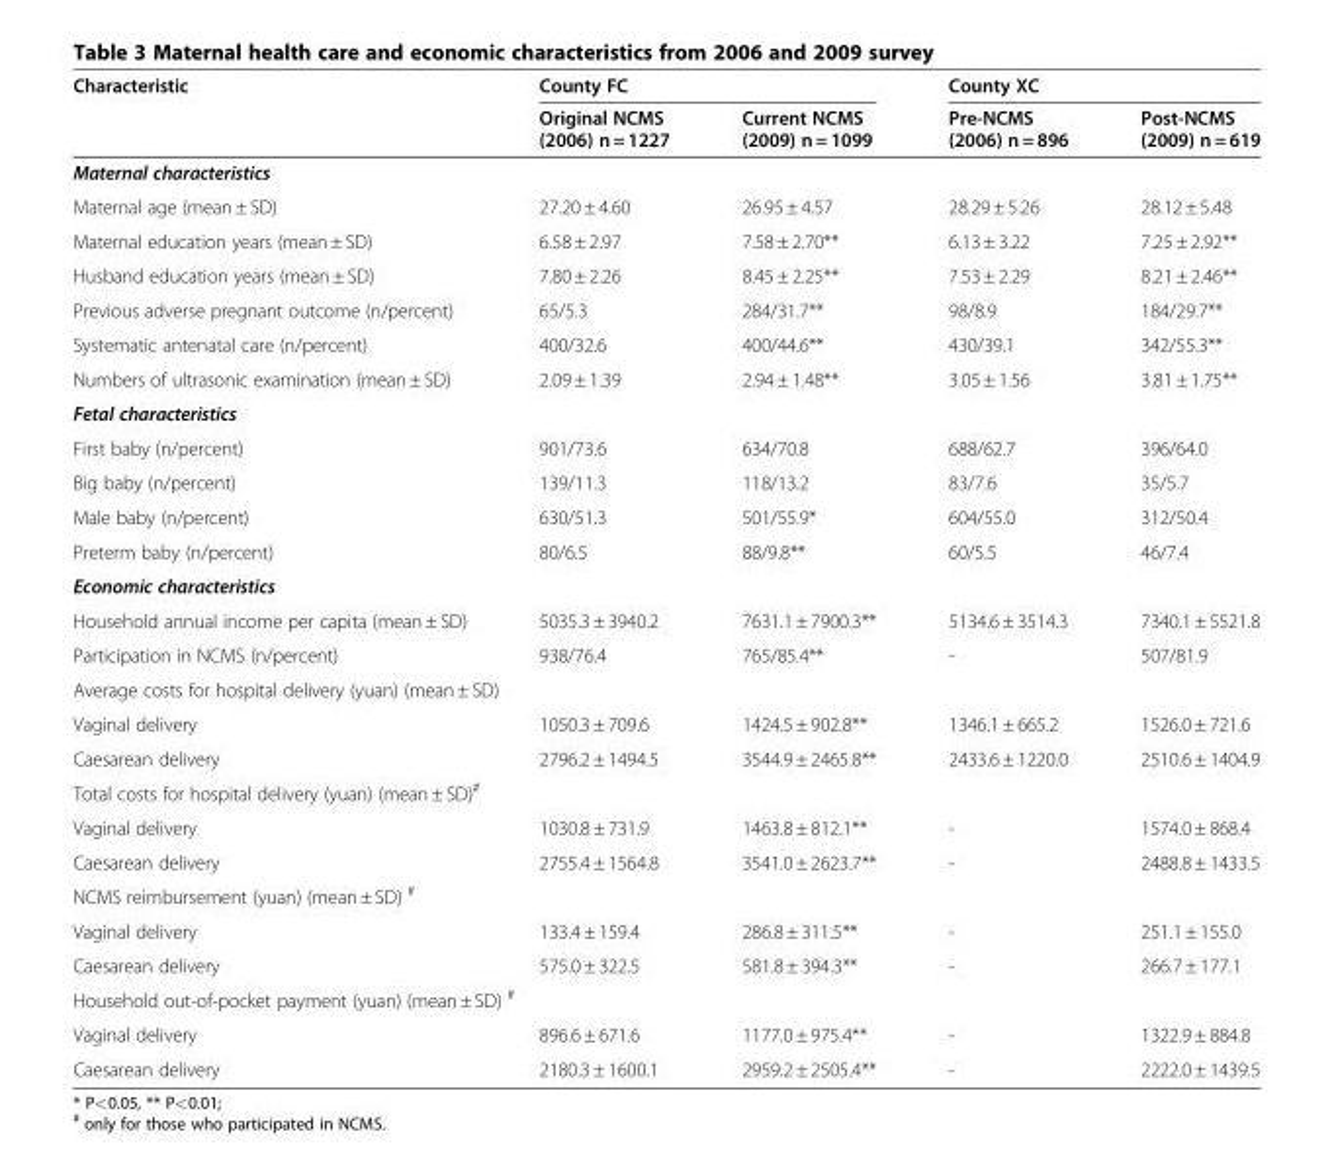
<table><thead><tr><td rowspan="2">Characteristic</td><td colspan="2">County FC</td><td colspan="2">County XC</td></tr><tr><td>Original NCMS (2006) n = 1227</td><td>Current NCMS (2009) n = 1099</td><td>Pre-NCMS (2006) n = 896</td><td>Post-NCMS (2009) n = 619</td></tr></thead><tbody><tr><td colspan="5">Maternal characteristics</td></tr><tr><td>Maternal age (mean ± SD)</td><td>27.20 ± 4.60</td><td>26.95 ± 4.57</td><td>28.29 ± 5.26</td><td>28.12 ± 5.48</td></tr><tr><td>Maternal education years (mean ± SD)</td><td>6.58 ± 2.97</td><td>7.58 ± 2.70**</td><td>6.13 ± 3.22</td><td>7.25 ± 2.92**</td></tr><tr><td>Husband education years (mean ± SD)</td><td>7.80 ± 2.26</td><td>8.45 ± 2.25**</td><td>7.53 ± 2.29</td><td>8.21 ± 2.46**</td></tr><tr><td>Previous adverse pregnant outcome (n/percent)</td><td>65/5.3</td><td>284/31.7**</td><td>98/8.9</td><td>184/29.7**</td></tr><tr><td>Systematic antenatal care (n/percent)</td><td>400/32.6</td><td>400/44.6**</td><td>430/39.1</td><td>342/55.3**</td></tr><tr><td>Numbers of ultrasonic examination (mean ± SD)</td><td>2.09 ± 1.39</td><td>2.94 ± 1.48**</td><td>3.05 ± 1.56</td><td>3.81 ± 1.75**</td></tr><tr><td colspan="5">Fetal characteristics</td></tr><tr><td>First baby (n/percent)</td><td>901/73.6</td><td>634/70.8</td><td>688/62.7</td><td>396/64.0</td></tr><tr><td>Big baby (n/percent)</td><td>139/11.3</td><td>118/13.2</td><td>83/7.6</td><td>35/5.7</td></tr><tr><td>Male baby (n/percent)</td><td>630/51.3</td><td>501/55.9*</td><td>604/55.0</td><td>312/50.4</td></tr><tr><td>Preterm baby (n/percent)</td><td>80/6.5</td><td>88/9.8**</td><td>60/5.5</td><td>46/7.4</td></tr><tr><td colspan="5">Economic characteristics</td></tr><tr><td>Household annual income per capita (mean ± SD)</td><td>5035.3 ± 3940.2</td><td>7631.1 ± 7900.3**</td><td>5134.6 ± 3514.3</td><td>7340.1 ± 5521.8</td></tr><tr><td>Participation in NCMS (n/percent)</td><td>938/76.4</td><td>765/85.4**</td><td>-</td><td>507/81.9</td></tr><tr><td colspan="5">Average costs for hospital delivery (yuan) (mean ± SD)</td></tr><tr><td>Vaginal delivery</td><td>1050.3 ± 709.6</td><td>1424.5 ± 902.8**</td><td>1346.1 ± 665.2</td><td>1526.0 ± 721.6</td></tr><tr><td>Caesarean delivery</td><td>2796.2 ± 1494.5</td><td>3544.9 ± 2465.8**</td><td>2433.6 ± 1220.0</td><td>2510.6 ± 1404.9</td></tr><tr><td colspan="5">Total costs for hospital delivery (yuan) (mean ± SD)<sup>#</sup></td></tr><tr><td>Vaginal delivery</td><td>1030.8 ± 731.9</td><td>1463.8 ± 812.1**</td><td>-</td><td>1574.0 ± 868.4</td></tr><tr><td>Caesarean delivery</td><td>2755.4 ± 1564.8</td><td>3541.0 ± 2623.7**</td><td>-</td><td>2488.8 ± 1433.5</td></tr><tr><td colspan="5">NCMS reimbursement (yuan) (mean ± SD) <sup>#</sup></td></tr><tr><td>Vaginal delivery</td><td>133.4 ± 159.4</td><td>286.8 ± 311.5**</td><td>-</td><td>251.1 ± 155.0</td></tr><tr><td>Caesarean delivery</td><td>575.0 ± 322.5</td><td>581.8 ± 394.3**</td><td>-</td><td>266.7 ± 177.1</td></tr><tr><td colspan="5">Household out-of-pocket payment (yuan) (mean ± SD) <sup>#</sup></td></tr><tr><td>Vaginal delivery</td><td>896.6 ± 671.6</td><td>1177.0 ± 975.4**</td><td>-</td><td>1322.9 ± 884.8</td></tr><tr><td>Caesarean delivery</td><td>2180.3 ± 1600.1</td><td>2959.2 ± 2505.4**</td><td>-</td><td>2222.0 ± 1439.5</td></tr></tbody></table>